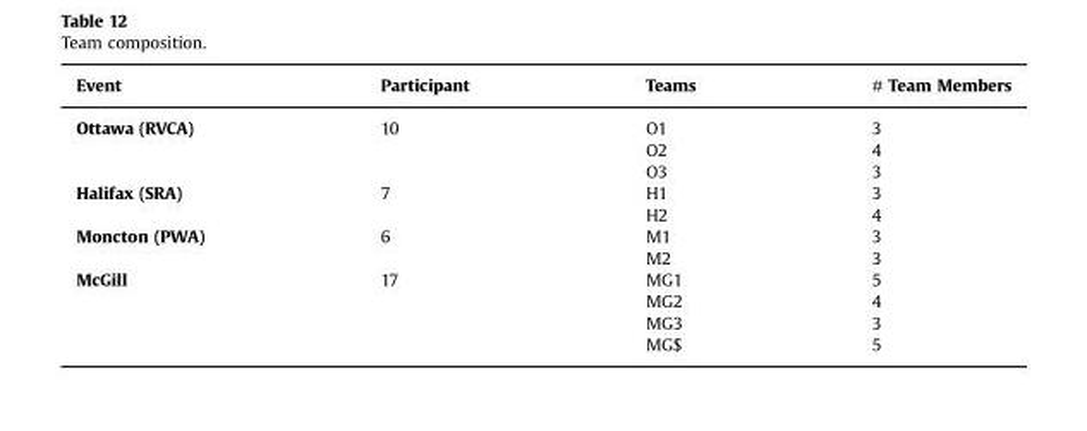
<table><thead><tr><td>Event</td><td>Participant</td><td>Teams</td><td># Team Members</td></tr></thead><tbody><tr><td rowspan="3">Ottawa (RVCA)</td><td>10</td><td>O1</td><td>3</td></tr><tr><td></td><td>O2</td><td>4</td></tr><tr><td></td><td>O3</td><td>3</td></tr><tr><td rowspan="2">Halifax (SRA)</td><td>7</td><td>H1</td><td>3</td></tr><tr><td></td><td>H2</td><td>4</td></tr><tr><td rowspan="2">Moncton (PWA)</td><td>6</td><td>M1</td><td>3</td></tr><tr><td></td><td>M2</td><td>3</td></tr><tr><td rowspan="4">McGill</td><td>17</td><td>MG1</td><td>5</td></tr><tr><td></td><td>MG2</td><td>4</td></tr><tr><td></td><td>MG3</td><td>3</td></tr><tr><td></td><td>MG$</td><td>5</td></tr></tbody></table>